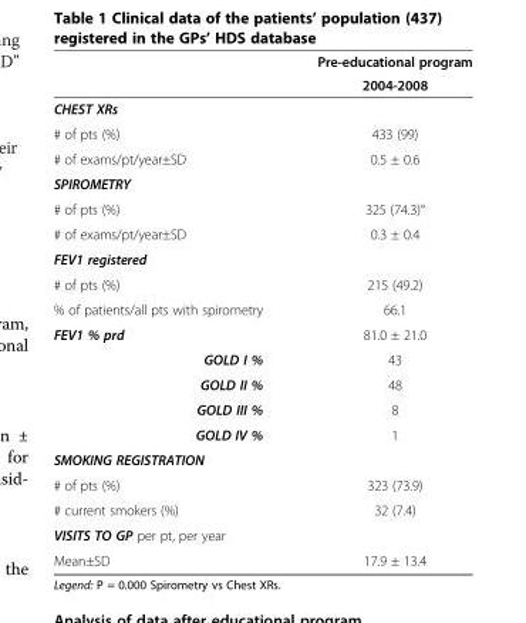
<table><thead><tr><td rowspan="2"></td><td rowspan="2">Pre-educational program 2004-2008</td></tr><tr></tr></thead><tbody><tr><td colspan="2">CHEST XRs</td></tr><tr><td># of pts (%)</td><td>433 (99)</td></tr><tr><td># of exams/pt/year±SD</td><td>0.5 ± 0.6</td></tr><tr><td colspan="2">SPIROMETRY</td></tr><tr><td># of pts (%)</td><td>325 (74.3)°</td></tr><tr><td># of exams/pt/year±SD</td><td>0.3 ± 0.4</td></tr><tr><td colspan="2">FEV1 registered</td></tr><tr><td># of pts (%)</td><td>215 (49.2)</td></tr><tr><td>% of patients/all pts with spirometry</td><td>66.1</td></tr><tr><td>FEV1 % prd</td><td>81.0 ± 21.0</td></tr><tr><td>GOLD I %</td><td>43</td></tr><tr><td>GOLD II %</td><td>48</td></tr><tr><td>GOLD III %</td><td>8</td></tr><tr><td>GOLD IV %</td><td>1</td></tr><tr><td colspan="2">SMOKING REGISTRATION</td></tr><tr><td># of pts (%)</td><td>323 (73.9)</td></tr><tr><td># current smokers (%)</td><td>32 (7.4)</td></tr><tr><td colspan="2">VISITS TO GP per pt, per year</td></tr><tr><td>Mean±SD</td><td>17.9 ± 13.4</td></tr></tbody></table>